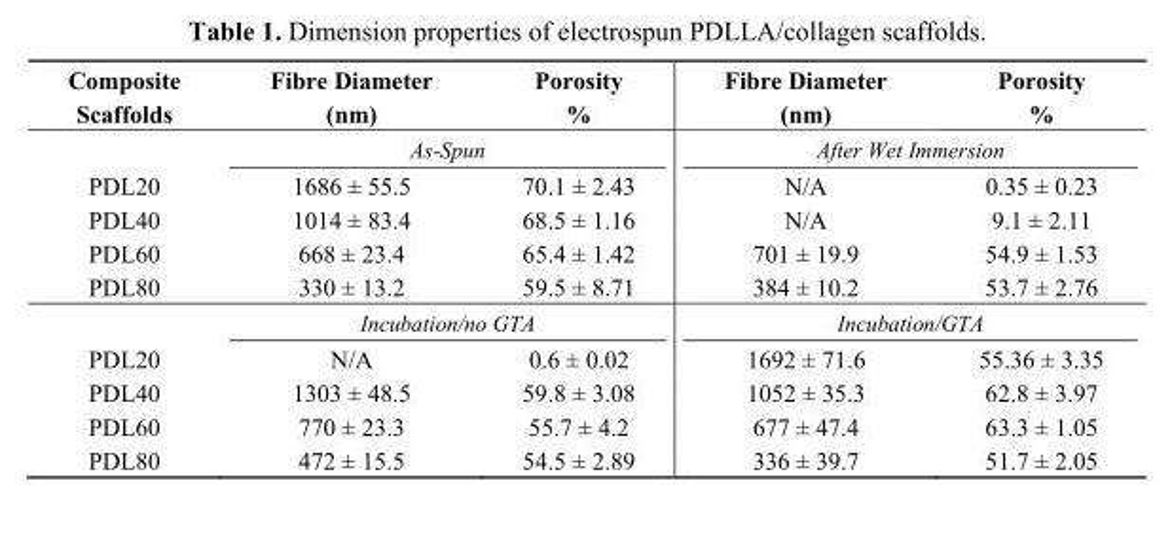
<table><thead><tr><td>Composite Scaffolds</td><td>Fibre Diameter (nm)</td><td>Porosity %</td><td>Fibre Diameter (nm)</td><td>Porosity %</td></tr></thead><tbody><tr><td></td><td colspan="2">As-Spun</td><td colspan="2">After Wet Immersion</td></tr><tr><td>PDL20</td><td>1686 ± 55.5</td><td>70.1 ± 2.43</td><td>N/A</td><td>0.35 ± 0.23</td></tr><tr><td>PDL40</td><td>1014 ± 83.4</td><td>68.5 ± 1.16</td><td>N/A</td><td>9.1 ± 2.11</td></tr><tr><td>PDL60</td><td>668 ± 23.4</td><td>65.4 ± 1.42</td><td>701 ± 19.9</td><td>54.9 ± 1.53</td></tr><tr><td rowspan="2">PDL80</td><td>330 ± 13.2</td><td>59.5 ± 8.71</td><td>384 ± 10.2</td><td>53.7 ± 2.76</td></tr><tr><td colspan="2">Incubation/no GTA</td><td colspan="2">Incubation/GTA</td></tr><tr><td>PDL20</td><td>N/A</td><td>0.6 ± 0.02</td><td>1692 ± 71.6</td><td>55.36 ± 3.35</td></tr><tr><td>PDL40</td><td>1303 ± 48.5</td><td>59.8 ± 3.08</td><td>1052 ± 35.3</td><td>62.8 ± 3.97</td></tr><tr><td>PDL60</td><td>770 ± 23.3</td><td>55.7 ± 4.2</td><td>677 ± 47.4</td><td>63.3 ± 1.05</td></tr><tr><td>PDL80</td><td>472 ± 15.5</td><td>54.5 ± 2.89</td><td>336 ± 39.7</td><td>51.7 ± 2.05</td></tr></tbody></table>